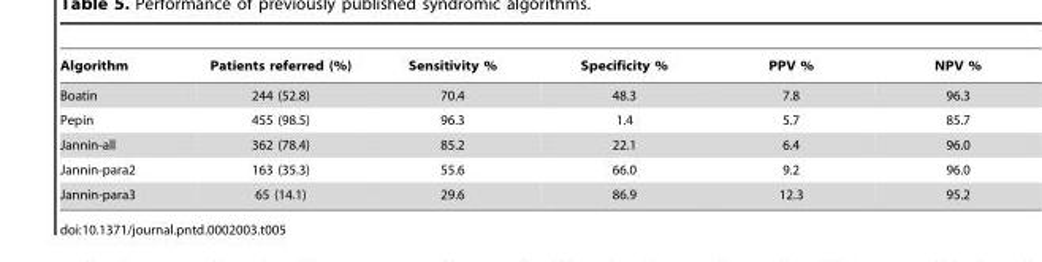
<table><thead><tr><td>Algorithm</td><td>Patients referred (%)</td><td>Sensitivity %</td><td>Specificity %</td><td>PPV %</td><td>NPV %</td></tr></thead><tbody><tr><td>Boatin</td><td>244 (52.8)</td><td>70.4</td><td>48.3</td><td>7.8</td><td>96.3</td></tr><tr><td>Pepin</td><td>455 (98.5)</td><td>96.3</td><td>1.4</td><td>5.7</td><td>85.7</td></tr><tr><td>Jannin-all</td><td>362 (78.4)</td><td>85.2</td><td>22.1</td><td>6.4</td><td>96.0</td></tr><tr><td>Jannin-para2</td><td>163 (35.3)</td><td>55.6</td><td>66.0</td><td>9.2</td><td>96.0</td></tr><tr><td>Jannin-para3</td><td>65 (14.1)</td><td>29.6</td><td>86.9</td><td>12.3</td><td>95.2</td></tr></tbody></table>